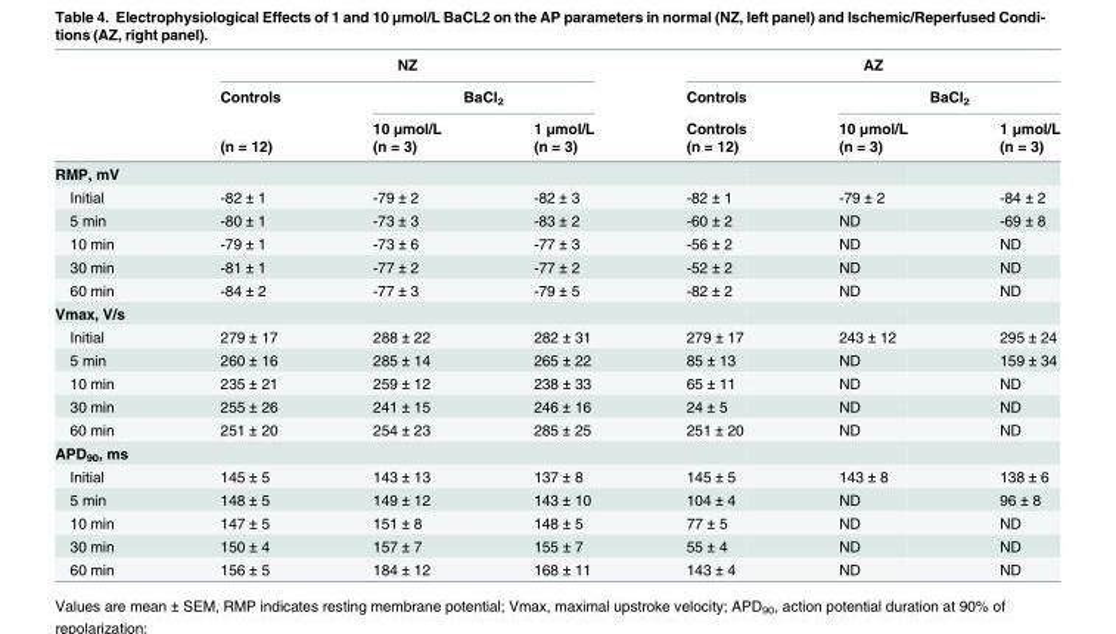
<table><thead><tr><td rowspan="4"></td><td colspan="3">NZ</td><td colspan="3">AZ</td></tr><tr><td rowspan="3">Controls (n = 12)</td><td colspan="2">BaCl<sub>2</sub></td><td rowspan="3">Controls Controls (n = 12)</td><td colspan="2">BaCl<sub>2</sub></td></tr><tr><td rowspan="2">10 μmol/L (n = 3)</td><td rowspan="2">1 μmol/L (n = 3)</td><td rowspan="2">10 μmol/L (n = 3)</td><td rowspan="2">1 μmol/L (n = 3)</td></tr><tr></tr></thead><tbody><tr><td colspan="7">RMP, mV</td></tr><tr><td>Initial</td><td>-82 ± 1</td><td>-79 ± 2</td><td>-82 ± 3</td><td>-82 ± 1</td><td>-79 ± 2</td><td>-84 ± 2</td></tr><tr><td>5 min</td><td>-80 ± 1</td><td>-73 ± 3</td><td>-83 ± 2</td><td>-60 ± 2</td><td>ND</td><td>-69 ± 8</td></tr><tr><td>10 min</td><td>-79 ± 1</td><td>-73 ± 6</td><td>-77 ± 3</td><td>-56 ± 2</td><td>ND</td><td>ND</td></tr><tr><td>30 min</td><td>-81 ± 1</td><td>-77 ± 2</td><td>-77 ± 2</td><td>-52 ± 2</td><td>ND</td><td>ND</td></tr><tr><td>60 min</td><td>-84 ± 2</td><td>-77 ± 3</td><td>-79 ± 5</td><td>-82 ± 2</td><td>ND</td><td>ND</td></tr><tr><td colspan="7">Vmax, V/s</td></tr><tr><td>Initial</td><td>279 ± 17</td><td>288 ± 22</td><td>282 ± 31</td><td>279 ± 17</td><td>243 ± 12</td><td>295 ± 24</td></tr><tr><td>5 min</td><td>260 ± 16</td><td>285 ± 14</td><td>265 ± 22</td><td>85 ± 13</td><td>ND</td><td>159 ± 34</td></tr><tr><td>10 min</td><td>235 ± 21</td><td>259 ± 12</td><td>238 ± 33</td><td>65 ± 11</td><td>ND</td><td>ND</td></tr><tr><td>30 min</td><td>255 ± 26</td><td>241 ± 15</td><td>246 ± 16</td><td>24 ± 5</td><td>ND</td><td>ND</td></tr><tr><td>60 min</td><td>251 ± 20</td><td>254 ± 23</td><td>285 ± 25</td><td>251 ± 20</td><td>ND</td><td>ND</td></tr><tr><td colspan="7">APD<sub>90</sub>, ms</td></tr><tr><td>Initial</td><td>145 ± 5</td><td>143 ± 13</td><td>137 ± 8</td><td>145 ± 5</td><td>143 ± 8</td><td>138 ± 6</td></tr><tr><td>5 min</td><td>148 ± 5</td><td>149 ± 12</td><td>143 ± 10</td><td>104 ± 4</td><td>ND</td><td>96 ± 8</td></tr><tr><td>10 min</td><td>147 ± 5</td><td>151 ± 8</td><td>148 ± 5</td><td>77 ± 5</td><td>ND</td><td>ND</td></tr><tr><td>30 min</td><td>150 ± 4</td><td>157 ± 7</td><td>155 ± 7</td><td>55 ± 4</td><td>ND</td><td>ND</td></tr><tr><td>60 min</td><td>156 ± 5</td><td>184 ± 12</td><td>168 ± 11</td><td>143 ± 4</td><td>ND</td><td>ND</td></tr></tbody></table>